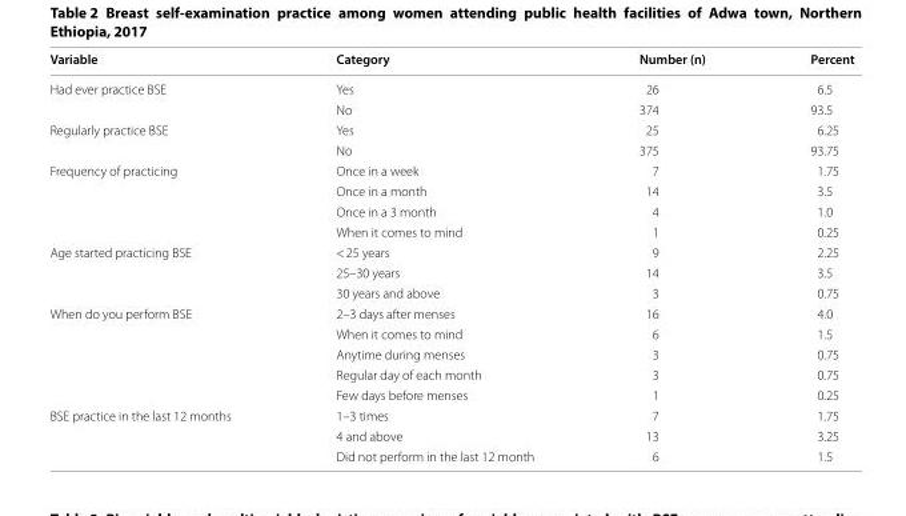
<table><thead><tr><td>Variable</td><td>Category</td><td>Number (n)</td><td>Percent</td></tr></thead><tbody><tr><td rowspan="2">Had ever practice BSE</td><td>Yes</td><td>26</td><td>6.5</td></tr><tr><td>No</td><td>374</td><td>93.5</td></tr><tr><td rowspan="2">Regularly practice BSE</td><td>Yes</td><td>25</td><td>6.25</td></tr><tr><td>No</td><td>375</td><td>93.75</td></tr><tr><td rowspan="4">Frequency of practicing</td><td>Once in a week</td><td>7</td><td>1.75</td></tr><tr><td>Once in a month</td><td>14</td><td>3.5</td></tr><tr><td>Once in a 3 month</td><td>4</td><td>1.0</td></tr><tr><td>When it comes to mind</td><td>1</td><td>0.25</td></tr><tr><td rowspan="3">Age started practicing BSE</td><td>&lt; 25 years</td><td>9</td><td>2.25</td></tr><tr><td>25–30 years</td><td>14</td><td>3.5</td></tr><tr><td>30 years and above</td><td>3</td><td>0.75</td></tr><tr><td rowspan="5">When do you perform BSE</td><td>2–3 days after menses</td><td>16</td><td>4.0</td></tr><tr><td>When it comes to mind</td><td>6</td><td>1.5</td></tr><tr><td>Anytime during menses</td><td>3</td><td>0.75</td></tr><tr><td>Regular day of each month</td><td>3</td><td>0.75</td></tr><tr><td>Few days before menses</td><td>1</td><td>0.25</td></tr><tr><td rowspan="3">BSE practice in the last 12 months</td><td>1–3 times</td><td>7</td><td>1.75</td></tr><tr><td>4 and above</td><td>13</td><td>3.25</td></tr><tr><td>Did not perform in the last 12 month</td><td>6</td><td>1.5</td></tr></tbody></table>